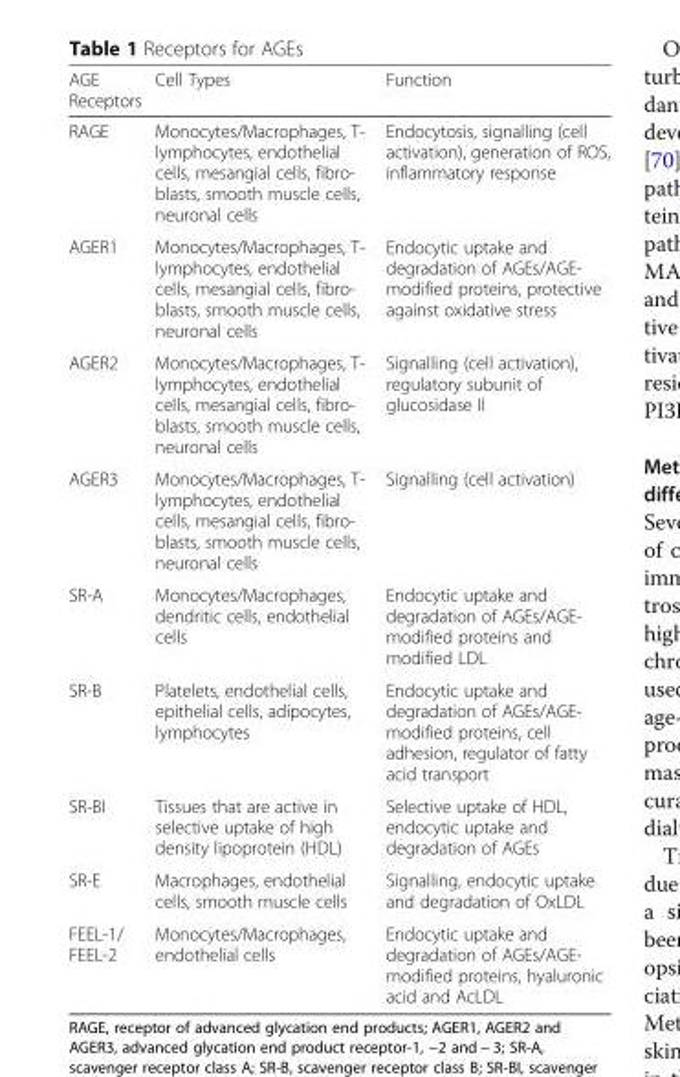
<table><thead><tr><td>AGE Receptors</td><td>Cell Types</td><td>Function</td></tr></thead><tbody><tr><td>RAGE</td><td>Monocytes/Macrophages, T- lymphocytes, endothelial cells, mesangial cells, fibro- blasts, smooth muscle cells, neuronal cells</td><td>Endocytosis, signalling (cell activation), generation of ROS, inflammatory response</td></tr><tr><td>AGER1</td><td>Monocytes/Macrophages, T- lymphocytes, endothelial cells, mesangial cells, fibro- blasts, smooth muscle cells, neuronal cells</td><td>Endocytic uptake and degradation of AGEs/AGE- modified proteins, protective against oxidative stress</td></tr><tr><td>AGER2</td><td>Monocytes/Macrophages, T- lymphocytes, endothelial cells, mesangial cells, fibro- blasts, smooth muscle cells, neuronal cells</td><td>Signalling (cell activation), regulatory subunit of glucosidase II</td></tr><tr><td>AGER3</td><td>Monocytes/Macrophages, T- lymphocytes, endothelial cells, mesangial cells, fibro- blasts, smooth muscle cells, neuronal cells</td><td>Signalling (cell activation)</td></tr><tr><td>SR-A</td><td>Monocytes/Macrophages, dendritic cells, endothelial cells</td><td>Endocytic uptake and degradation of AGEs/AGE- modified proteins and modified LDL</td></tr><tr><td>SR-B</td><td>Platelets, endothelial cells, epithelial cells, adipocytes, lymphocytes</td><td>Endocytic uptake and degradation of AGEs/AGE- modified proteins, cell adhesion, regulator of fatty acid transport</td></tr><tr><td>SR-BI</td><td>Tissues that are active in selective uptake of high density lipoprotein (HDL)</td><td>Selective uptake of HDL, endocytic uptake and degradation of AGEs</td></tr><tr><td>SR-E</td><td>Macrophages, endothelial cells, smooth muscle cells</td><td>Signalling, endocytic uptake and degradation of OxLDL</td></tr><tr><td>FEEL-1/ FEEL-2</td><td>Monocytes/Macrophages, endothelial cells</td><td>Endocytic uptake and degradation of AGEs/AGE- modified proteins, hyaluronic acid and AcLDL</td></tr></tbody></table>